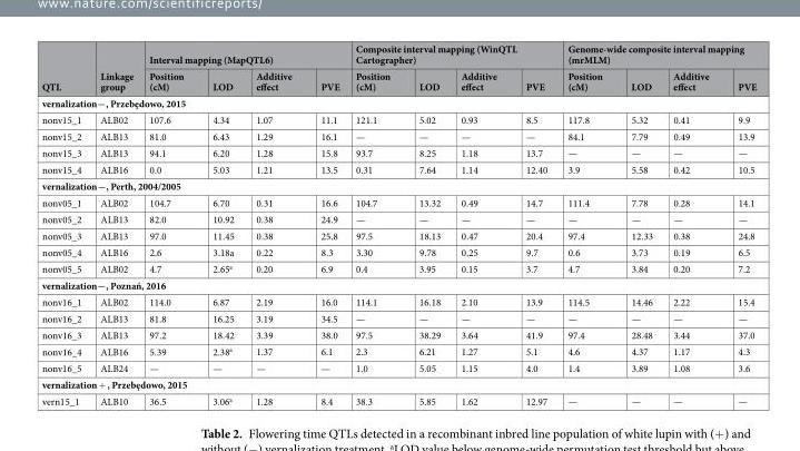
<table><thead><tr><td rowspan="2">QTL</td><td rowspan="2">Linkage group</td><td colspan="4">Interval mapping (MapQTL6)</td><td colspan="4">Composite interval mapping (WinQTL Cartographer)</td><td colspan="4">Genome-wide composite interval mapping (mrMLM)</td></tr><tr><td>Position (cM)</td><td>LOD</td><td>Additive effect</td><td>PVE</td><td>Position (cM)</td><td>LOD</td><td>Additive effect</td><td>PVE</td><td>Position (cM)</td><td>LOD</td><td>Additive effect</td><td>PVE</td></tr></thead><tbody><tr><td colspan="14">vernalization−, Przebędowo, 2015</td></tr><tr><td>nonv15_1</td><td>ALB02</td><td>107.6</td><td>4.34</td><td>1.07</td><td>11.1</td><td>121.1</td><td>5.02</td><td>0.93</td><td>8.5</td><td>117.8</td><td>5.32</td><td>0.41</td><td>9.9</td></tr><tr><td>nonv15_2</td><td>ALB13</td><td>81.0</td><td>6.43</td><td>1.29</td><td>16.1</td><td>—</td><td>—</td><td>—</td><td>—</td><td>84.1</td><td>7.79</td><td>0.49</td><td>13.9</td></tr><tr><td>nonv15_3</td><td>ALB13</td><td>94.1</td><td>6.20</td><td>1.28</td><td>15.8</td><td>93.7</td><td>8.25</td><td>1.18</td><td>13.7</td><td>—</td><td>—</td><td>—</td><td>—</td></tr><tr><td>nonv15_4</td><td>ALB16</td><td>0.0</td><td>5.03</td><td>1.21</td><td>13.5</td><td>0.31</td><td>7.64</td><td>1.14</td><td>12.40</td><td>3.9</td><td>5.58</td><td>0.42</td><td>10.5</td></tr><tr><td colspan="14">vernalization−, Perth, 2004/2005</td></tr><tr><td>nonv05_1</td><td>ALB02</td><td>104.7</td><td>6.70</td><td>0.31</td><td>16.6</td><td>104.7</td><td>13.32</td><td>0.49</td><td>14.7</td><td>111.4</td><td>7.78</td><td>0.28</td><td>14.1</td></tr><tr><td>nonv05_2</td><td>ALB13</td><td>82.0</td><td>10.92</td><td>0.38</td><td>24.9</td><td>—</td><td>—</td><td>—</td><td>—</td><td>—</td><td>—</td><td>—</td><td>—</td></tr><tr><td>nonv05_3</td><td>ALB13</td><td>97.0</td><td>11.45</td><td>0.38</td><td>25.8</td><td>97.5</td><td>18.13</td><td>0.47</td><td>20.4</td><td>97.4</td><td>12.33</td><td>0.38</td><td>24.8</td></tr><tr><td>nonv05_4</td><td>ALB16</td><td>2.6</td><td>3.18a</td><td>0.22</td><td>8.3</td><td>3.30</td><td>9.78</td><td>0.25</td><td>9.7</td><td>0.6</td><td>3.73</td><td>0.19</td><td>6.5</td></tr><tr><td>nonv05_5</td><td>ALB02</td><td>4.7</td><td>2.65<sup>a</sup></td><td>0.20</td><td>6.9</td><td>0.4</td><td>3.95</td><td>0.15</td><td>3.7</td><td>4.7</td><td>3.84</td><td>0.20</td><td>7.2</td></tr><tr><td colspan="14">vernalization−, Poznań, 2016</td></tr><tr><td>nonv16_1</td><td>ALB02</td><td>114.0</td><td>6.87</td><td>2.19</td><td>16.0</td><td>114.1</td><td>16.18</td><td>2.10</td><td>13.9</td><td>114.5</td><td>14.46</td><td>2.22</td><td>15.4</td></tr><tr><td>nonv16_2</td><td>ALB13</td><td>81.8</td><td>16.25</td><td>3.19</td><td>34.5</td><td>—</td><td>—</td><td>—</td><td>—</td><td>—</td><td>—</td><td>—</td><td>—</td></tr><tr><td>nonv16_3</td><td>ALB13</td><td>97.2</td><td>18.42</td><td>3.39</td><td>38.0</td><td>97.5</td><td>38.29</td><td>3.64</td><td>41.9</td><td>97.4</td><td>28.48</td><td>3.44</td><td>37.0</td></tr><tr><td>nonv16_4</td><td>ALB16</td><td>5.39</td><td>2.38<sup>a</sup></td><td>1.37</td><td>6.1</td><td>2.3</td><td>6.21</td><td>1.27</td><td>5.1</td><td>4.6</td><td>4.37</td><td>1.17</td><td>4.3</td></tr><tr><td>nonv16_5</td><td>ALB24</td><td>—</td><td>—</td><td>—</td><td>—</td><td>1.0</td><td>5.05</td><td>1.15</td><td>4.0</td><td>1.4</td><td>3.89</td><td>1.08</td><td>3.6</td></tr><tr><td colspan="14">vernalization + , Przebędowo, 2015</td></tr><tr><td>vern15_1</td><td>ALB10</td><td>36.5</td><td>3.06<sup>a</sup></td><td>1.28</td><td>8.4</td><td>38.3</td><td>5.85</td><td>1.62</td><td>12.97</td><td>—</td><td>—</td><td>—</td><td>—</td></tr></tbody></table>